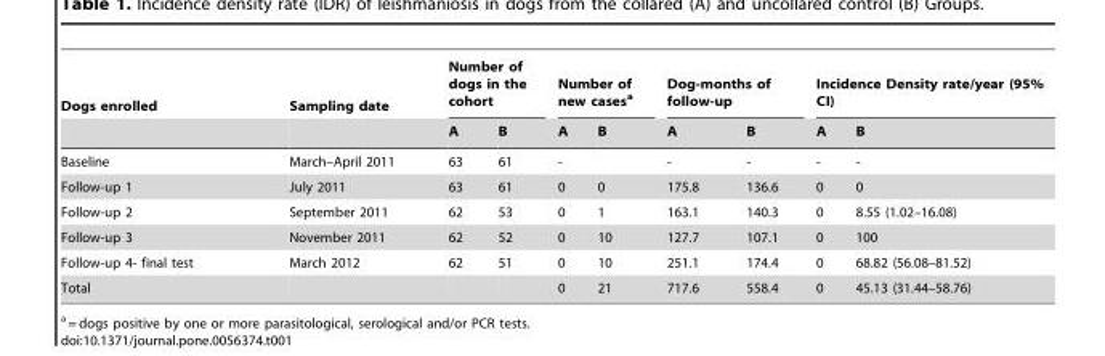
<table><thead><tr><td rowspan="2">Dogs enrolled</td><td rowspan="2">Sampling date</td><td colspan="2">Number of dogs in the cohort</td><td colspan="2">Number of new cases<sup>a</sup></td><td colspan="2">Dog-months of follow-up</td><td colspan="2">Incidence Density rate/year (95% CI)</td></tr><tr><td>A</td><td>B</td><td>A</td><td>B</td><td>A</td><td>B</td><td>A</td><td>B</td></tr></thead><tbody><tr><td>Baseline</td><td>March–April 2011</td><td>63</td><td>61</td><td>-</td><td></td><td>-</td><td>-</td><td>-</td><td>-</td></tr><tr><td>Follow-up 1</td><td>July 2011</td><td>63</td><td>61</td><td>0</td><td>0</td><td>175.8</td><td>136.6</td><td>0</td><td>0</td></tr><tr><td>Follow-up 2</td><td>September 2011</td><td>62</td><td>53</td><td>0</td><td>1</td><td>163.1</td><td>140.3</td><td>0</td><td>8.55 (1.02–16.08)</td></tr><tr><td>Follow-up 3</td><td>November 2011</td><td>62</td><td>52</td><td>0</td><td>10</td><td>127.7</td><td>107.1</td><td>0</td><td>100</td></tr><tr><td>Follow-up 4- final test</td><td>March 2012</td><td>62</td><td>51</td><td>0</td><td>10</td><td>251.1</td><td>174.4</td><td>0</td><td>68.82 (56.08–81.52)</td></tr><tr><td>Total</td><td></td><td></td><td></td><td>0</td><td>21</td><td>717.6</td><td>558.4</td><td>0</td><td>45.13 (31.44–58.76)</td></tr></tbody></table>